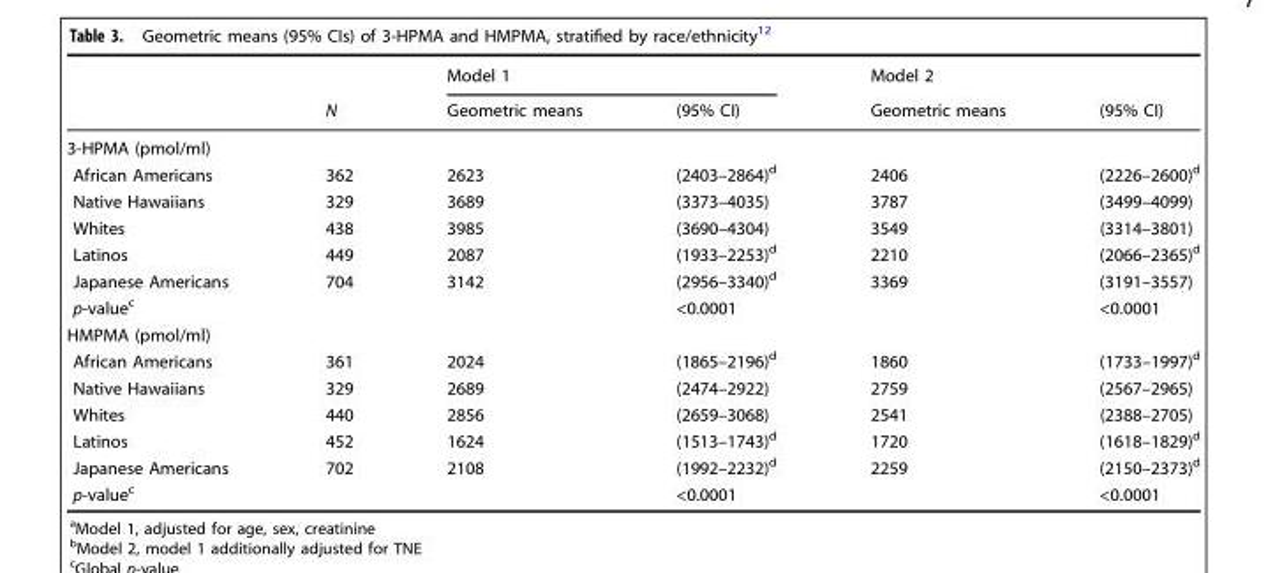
<table><thead><tr><td rowspan="2"></td><td rowspan="2">N</td><td colspan="2">Model 1</td><td rowspan="2">Model 2 Geometric means</td><td rowspan="2">(95% CI)</td></tr><tr><td>Geometric means</td><td>(95% CI)</td></tr></thead><tbody><tr><td colspan="6">3-HPMA (pmol/ml)</td></tr><tr><td>African Americans</td><td>362</td><td>2623</td><td>(2403–2864)<sup>d</sup></td><td>2406</td><td>(2226–2600)<sup>d</sup></td></tr><tr><td>Native Hawaiians</td><td>329</td><td>3689</td><td>(3373–4035)</td><td>3787</td><td>(3499–4099)</td></tr><tr><td>Whites</td><td>438</td><td>3985</td><td>(3690–4304)</td><td>3549</td><td>(3314–3801)</td></tr><tr><td>Latinos</td><td>449</td><td>2087</td><td>(1933–2253)<sup>d</sup></td><td>2210</td><td>(2066–2365)<sup>d</sup></td></tr><tr><td>Japanese Americans</td><td>704</td><td>3142</td><td>(2956–3340)<sup>d</sup></td><td>3369</td><td>(3191–3557)</td></tr><tr><td>p-value<sup>c</sup></td><td></td><td></td><td>&lt;0.0001</td><td></td><td>&lt;0.0001</td></tr><tr><td colspan="6">HMPMA (pmol/ml)</td></tr><tr><td>African Americans</td><td>361</td><td>2024</td><td>(1865–2196)<sup>d</sup></td><td>1860</td><td>(1733–1997)<sup>d</sup></td></tr><tr><td>Native Hawaiians</td><td>329</td><td>2689</td><td>(2474–2922)</td><td>2759</td><td>(2567–2965)</td></tr><tr><td>Whites</td><td>440</td><td>2856</td><td>(2659–3068)</td><td>2541</td><td>(2388–2705)</td></tr><tr><td>Latinos</td><td>452</td><td>1624</td><td>(1513–1743)<sup>d</sup></td><td>1720</td><td>(1618–1829)<sup>d</sup></td></tr><tr><td>Japanese Americans</td><td>702</td><td>2108</td><td>(1992–2232)<sup>d</sup></td><td>2259</td><td>(2150–2373)<sup>d</sup></td></tr><tr><td>p-value<sup>c</sup></td><td></td><td></td><td>&lt;0.0001</td><td></td><td>&lt;0.0001</td></tr></tbody></table>